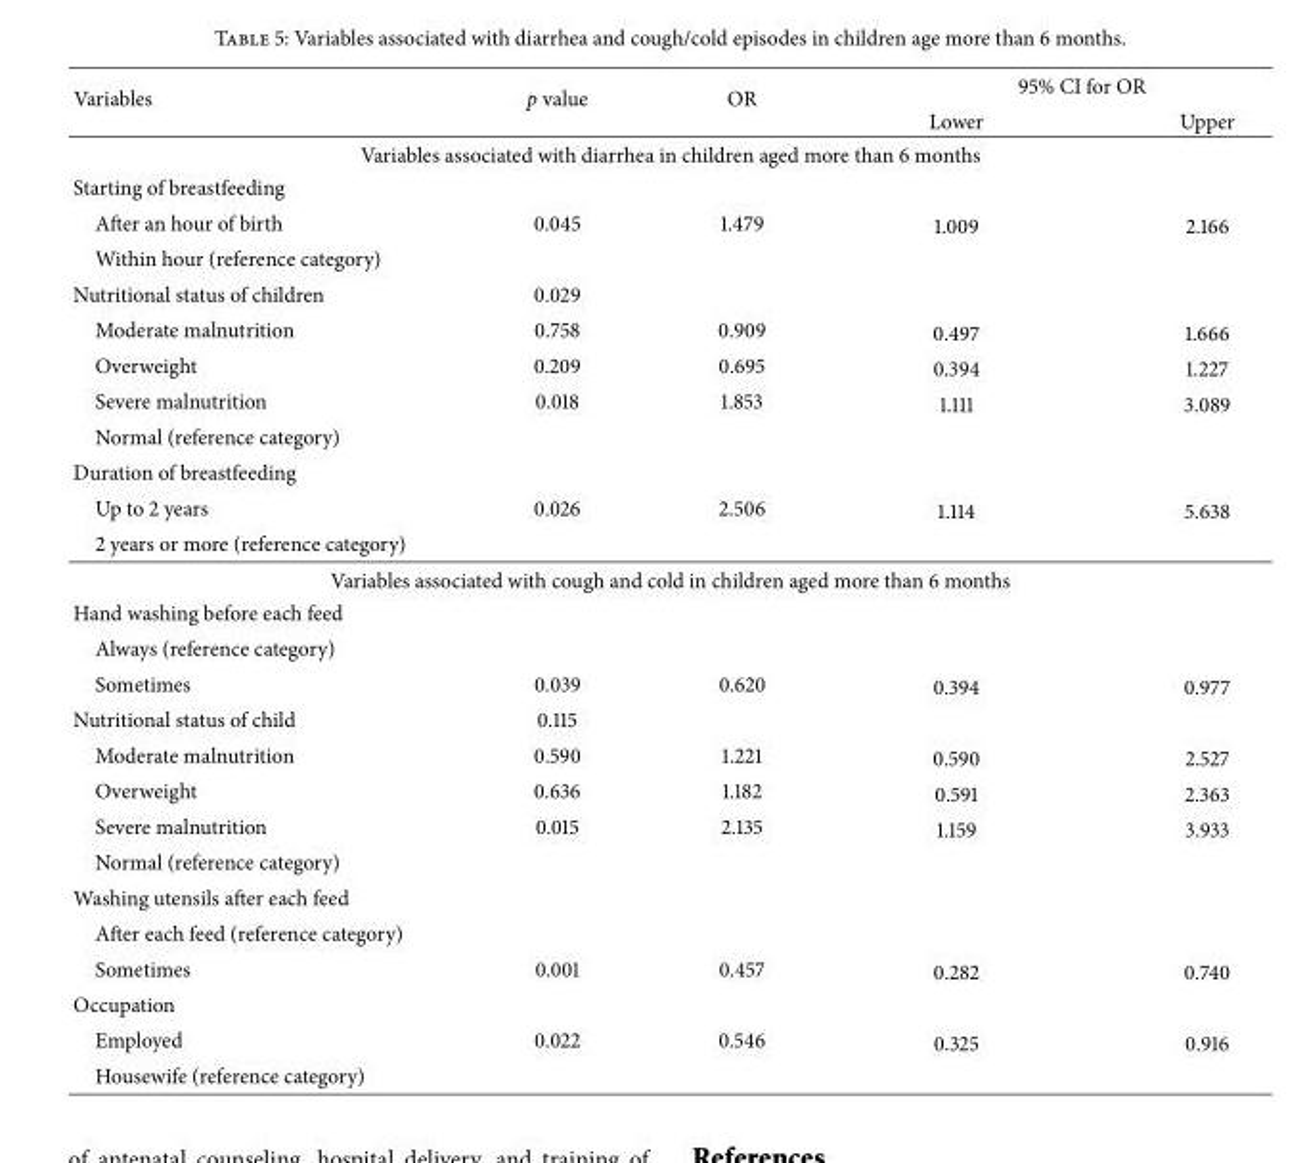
<table><thead><tr><td rowspan="2">Variables</td><td rowspan="2">p value</td><td rowspan="2">OR</td><td colspan="2">95% CI for OR</td></tr><tr><td>Lower</td><td>Upper</td></tr></thead><tbody><tr><td colspan="5">Variables associated with diarrhea in children aged more than 6 months</td></tr><tr><td colspan="5">Starting of breastfeeding</td></tr><tr><td>After an hour of birth</td><td>0.045</td><td>1.479</td><td>1.009</td><td>2.166</td></tr><tr><td colspan="5">Within hour (reference category)</td></tr><tr><td>Nutritional status of children</td><td>0.029</td><td></td><td></td><td></td></tr><tr><td>Moderate malnutrition</td><td>0.758</td><td>0.909</td><td>0.497</td><td>1.666</td></tr><tr><td>Overweight</td><td>0.209</td><td>0.695</td><td>0.394</td><td>1.227</td></tr><tr><td>Severe malnutrition</td><td>0.018</td><td>1.853</td><td>1.111</td><td>3.089</td></tr><tr><td colspan="5">Normal (reference category)</td></tr><tr><td colspan="5">Duration of breastfeeding</td></tr><tr><td>Up to 2 years</td><td>0.026</td><td>2.506</td><td>1.114</td><td>5.638</td></tr><tr><td colspan="5">2 years or more (reference category)</td></tr><tr><td colspan="5">Variables associated with cough and cold in children aged more than 6 months</td></tr><tr><td colspan="5">Hand washing before each feed</td></tr><tr><td colspan="5">Always (reference category)</td></tr><tr><td>Sometimes</td><td>0.039</td><td>0.620</td><td>0.394</td><td>0.977</td></tr><tr><td>Nutritional status of child</td><td>0.115</td><td></td><td></td><td></td></tr><tr><td>Moderate malnutrition</td><td>0.590</td><td>1.221</td><td>0.590</td><td>2.527</td></tr><tr><td>Overweight</td><td>0.636</td><td>1.182</td><td>0.591</td><td>2.363</td></tr><tr><td>Severe malnutrition</td><td>0.015</td><td>2.135</td><td>1.159</td><td>3.933</td></tr><tr><td colspan="5">Normal (reference category)</td></tr><tr><td colspan="5">Washing utensils after each feed</td></tr><tr><td colspan="5">After each feed (reference category)</td></tr><tr><td>Sometimes</td><td>0.001</td><td>0.457</td><td>0.282</td><td>0.740</td></tr><tr><td colspan="5">Occupation</td></tr><tr><td>Employed</td><td>0.022</td><td>0.546</td><td>0.325</td><td>0.916</td></tr><tr><td>Housewife (reference category)</td><td></td><td></td><td></td><td></td></tr></tbody></table>